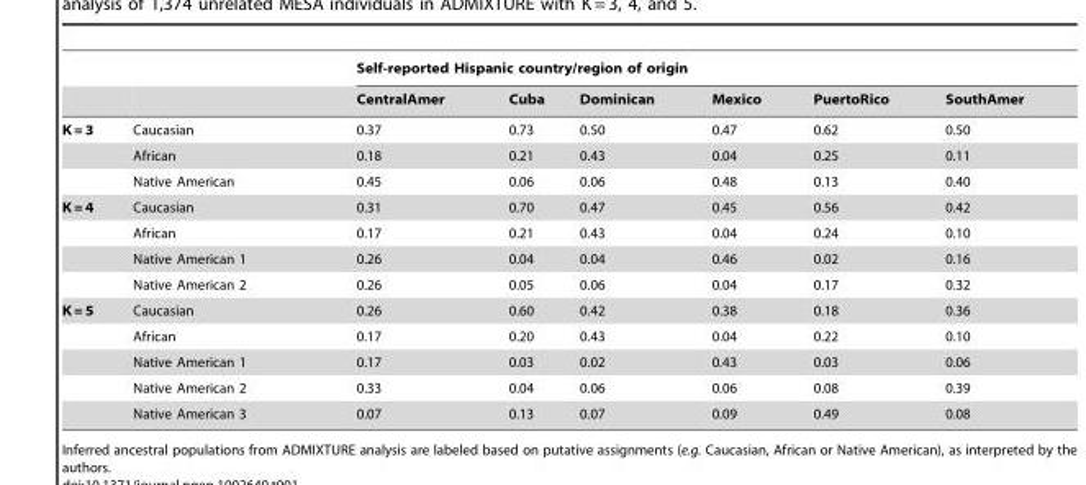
<table><thead><tr><td rowspan="2"></td><td rowspan="2"></td><td colspan="6">Self-reported Hispanic country/region of origin</td></tr><tr><td>CentralAmer</td><td>Cuba</td><td>Dominican</td><td>Mexico</td><td>PuertoRico</td><td>SouthAmer</td></tr></thead><tbody><tr><td rowspan="3">K = 3</td><td>Caucasian</td><td>0.37</td><td>0.73</td><td>0.50</td><td>0.47</td><td>0.62</td><td>0.50</td></tr><tr><td>African</td><td>0.18</td><td>0.21</td><td>0.43</td><td>0.04</td><td>0.25</td><td>0.11</td></tr><tr><td>Native American</td><td>0.45</td><td>0.06</td><td>0.06</td><td>0.48</td><td>0.13</td><td>0.40</td></tr><tr><td rowspan="4">K = 4</td><td>Caucasian</td><td>0.31</td><td>0.70</td><td>0.47</td><td>0.45</td><td>0.56</td><td>0.42</td></tr><tr><td>African</td><td>0.17</td><td>0.21</td><td>0.43</td><td>0.04</td><td>0.24</td><td>0.10</td></tr><tr><td>Native American 1</td><td>0.26</td><td>0.04</td><td>0.04</td><td>0.46</td><td>0.02</td><td>0.16</td></tr><tr><td>Native American 2</td><td>0.26</td><td>0.05</td><td>0.06</td><td>0.04</td><td>0.17</td><td>0.32</td></tr><tr><td rowspan="5">K = 5</td><td>Caucasian</td><td>0.26</td><td>0.60</td><td>0.42</td><td>0.38</td><td>0.18</td><td>0.36</td></tr><tr><td>African</td><td>0.17</td><td>0.20</td><td>0.43</td><td>0.04</td><td>0.22</td><td>0.10</td></tr><tr><td>Native American 1</td><td>0.17</td><td>0.03</td><td>0.02</td><td>0.43</td><td>0.03</td><td>0.06</td></tr><tr><td>Native American 2</td><td>0.33</td><td>0.04</td><td>0.06</td><td>0.06</td><td>0.08</td><td>0.39</td></tr><tr><td>Native American 3</td><td>0.07</td><td>0.13</td><td>0.07</td><td>0.09</td><td>0.49</td><td>0.08</td></tr></tbody></table>